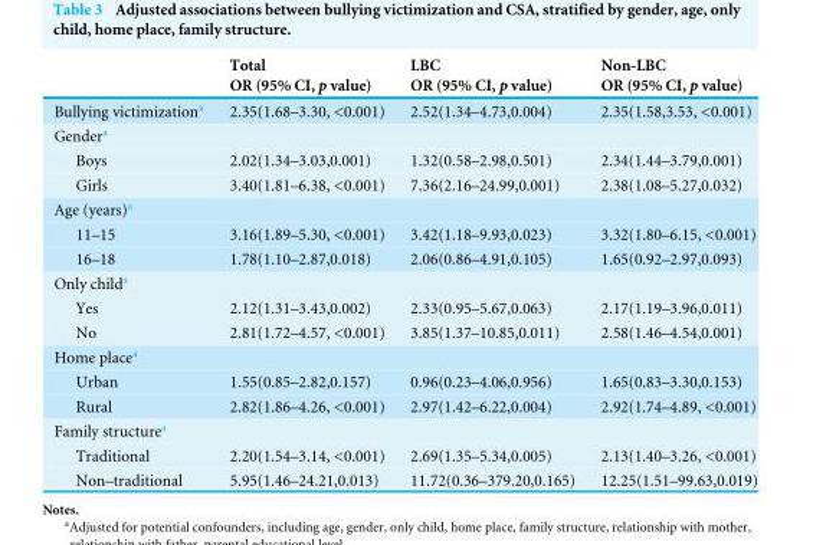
<table><thead><tr><td rowspan="2"></td><td rowspan="2">Total OR (95% CI, p value)</td><td rowspan="2">LBC OR (95% CI, p value)</td><td rowspan="2">Non-LBC OR (95% CI, p value)</td></tr><tr></tr></thead><tbody><tr><td>Bullying victimization<sup>a</sup></td><td>2.35(1.68–3.30, &lt;0.001)</td><td>2.52(1.34–4.73,0.004)</td><td>2.35(1.58,3.53, &lt;0.001)</td></tr><tr><td colspan="4">Gender<sup>a</sup></td></tr><tr><td>Boys</td><td>2.02(1.34–3.03,0.001)</td><td>1.32(0.58–2.98,0.501)</td><td>2.34(1.44–3.79,0.001)</td></tr><tr><td>Girls</td><td>3.40(1.81–6.38, &lt;0.001)</td><td>7.36(2.16–24.99,0.001)</td><td>2.38(1.08–5.27,0.032)</td></tr><tr><td colspan="4">Age (years)<sup>a</sup></td></tr><tr><td>11–15</td><td>3.16(1.89–5.30, &lt;0.001)</td><td>3.42(1.18–9.93,0.023)</td><td>3.32(1.80–6.15, &lt;0.001)</td></tr><tr><td>16–18</td><td>1.78(1.10–2.87,0.018)</td><td>2.06(0.86–4.91,0.105)</td><td>1.65(0.92–2.97,0.093)</td></tr><tr><td colspan="4">Only child<sup>a</sup></td></tr><tr><td>Yes</td><td>2.12(1.31–3.43,0.002)</td><td>2.33(0.95–5.67,0.063)</td><td>2.17(1.19–3.96,0.011)</td></tr><tr><td>No</td><td>2.81(1.72–4.57, &lt;0.001)</td><td>3.85(1.37–10.85,0.011)</td><td>2.58(1.46–4.54,0.001)</td></tr><tr><td colspan="4">Home place<sup>a</sup></td></tr><tr><td>Urban</td><td>1.55(0.85–2.82,0.157)</td><td>0.96(0.23–4.06,0.956)</td><td>1.65(0.83–3.30,0.153)</td></tr><tr><td>Rural</td><td>2.82(1.86–4.26, &lt;0.001)</td><td>2.97(1.42–6.22,0.004)</td><td>2.92(1.74–4.89, &lt;0.001)</td></tr><tr><td colspan="4">Family structure<sup>a</sup></td></tr><tr><td>Traditional</td><td>2.20(1.54–3.14, &lt;0.001)</td><td>2.69(1.35–5.34,0.005)</td><td>2.13(1.40–3.26, &lt;0.001)</td></tr><tr><td>Non–traditional</td><td>5.95(1.46–24.21,0.013)</td><td>11.72(0.36–379.20,0.165)</td><td>12.25(1.51–99.63,0.019)</td></tr></tbody></table>